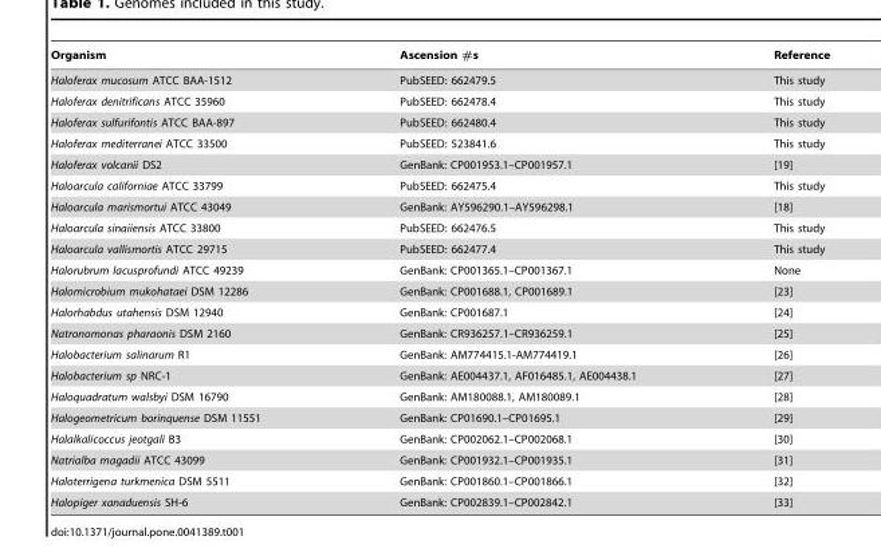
<table><thead><tr><td>Organism</td><td>Ascension #s</td><td>Reference</td></tr></thead><tbody><tr><td>Haloferax mucosum ATCC BAA-1512</td><td>PubSEED: 662479.5</td><td>This study</td></tr><tr><td>Haloferax denitrificans ATCC 35960</td><td>PubSEED: 662478.4</td><td>This study</td></tr><tr><td>Haloferax sulfurifontis ATCC BAA-897</td><td>PubSEED: 662480.4</td><td>This study</td></tr><tr><td>Haloferax mediterranei ATCC 33500</td><td>PubSEED: 523841.6</td><td>This study</td></tr><tr><td>Haloferax volcanii DS2</td><td>GenBank: CP001953.1–CP001957.1</td><td>[19]</td></tr><tr><td>Haloarcula californiae ATCC 33799</td><td>PubSEED: 662475.4</td><td>This study</td></tr><tr><td>Haloarcula marismortui ATCC 43049</td><td>GenBank: AY596290.1–AY596298.1</td><td>[18]</td></tr><tr><td>Haloarcula sinaiiensis ATCC 33800</td><td>PubSEED: 662476.5</td><td>This study</td></tr><tr><td>Haloarcula vallismortis ATCC 29715</td><td>PubSEED: 662477.4</td><td>This study</td></tr><tr><td>Halorubrum lacusprofundi ATCC 49239</td><td>GenBank: CP001365.1–CP001367.1</td><td>None</td></tr><tr><td>Halomicrobium mukohataei DSM 12286</td><td>GenBank: CP001688.1, CP001689.1</td><td>[23]</td></tr><tr><td>Halorhabdus utahensis DSM 12940</td><td>GenBank: CP001687.1</td><td>[24]</td></tr><tr><td>Natronomonas pharaonis DSM 2160</td><td>GenBank: CR936257.1–CR936259.1</td><td>[25]</td></tr><tr><td>Halobacterium salinarum R1</td><td>GenBank: AM774415.1-AM774419.1</td><td>[26]</td></tr><tr><td>Halobacterium sp NRC-1</td><td>GenBank: AE004437.1, AF016485.1, AE004438.1</td><td>[27]</td></tr><tr><td>Haloquadratum walsbyi DSM 16790</td><td>GenBank: AM180088.1, AM180089.1</td><td>[28]</td></tr><tr><td>Halogeometricum borinquense DSM 11551</td><td>GenBank: CP01690.1–CP01695.1</td><td>[29]</td></tr><tr><td>Halalkalicoccus jeotgali B3</td><td>GenBank: CP002062.1–CP002068.1</td><td>[30]</td></tr><tr><td>Natrialba magadii ATCC 43099</td><td>GenBank: CP001932.1–CP001935.1</td><td>[31]</td></tr><tr><td>Haloterrigena turkmenica DSM 5511</td><td>GenBank: CP001860.1–CP001866.1</td><td>[32]</td></tr><tr><td>Halopiger xanaduensis SH-6</td><td>GenBank: CP002839.1–CP002842.1</td><td>[33]</td></tr></tbody></table>